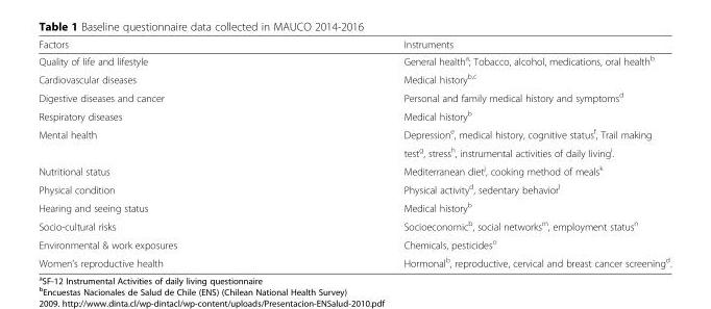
<table><thead><tr><td>Factors</td><td>Instruments</td></tr></thead><tbody><tr><td>Quality of life and lifestyle</td><td>General health<sup>a</sup>; Tobacco, alcohol, medications, oral health<sup>b</sup></td></tr><tr><td>Cardiovascular diseases</td><td>Medical history<sup>b,c</sup></td></tr><tr><td>Digestive diseases and cancer</td><td>Personal and family medical history and symptoms<sup>d</sup></td></tr><tr><td>Respiratory diseases</td><td>Medical history<sup>b</sup></td></tr><tr><td rowspan="2">Mental health</td><td>Depression<sup>e</sup>, medical history, cognitive status<sup>f</sup>, Trail making</td></tr><tr><td>test<sup>g</sup>, stress<sup>h</sup>, instrumental activities of daily living<sup>i</sup>.</td></tr><tr><td>Nutritional status</td><td>Mediterranean diet<sup>j</sup>, cooking method of meals<sup>k</sup></td></tr><tr><td>Physical condition</td><td>Physical activity<sup>d</sup>, sedentary behavior<sup>l</sup></td></tr><tr><td>Hearing and seeing status</td><td>Medical history<sup>b</sup></td></tr><tr><td>Socio-cultural risks</td><td>Socioeconomic<sup>b</sup>, social networks<sup>m</sup>, employment status<sup>n</sup></td></tr><tr><td>Environmental &amp; work exposures</td><td>Chemicals, pesticides<sup>o</sup></td></tr><tr><td>Women’s reproductive health</td><td>Hormonal<sup>b</sup>, reproductive, cervical and breast cancer screening<sup>d</sup>.</td></tr></tbody></table>